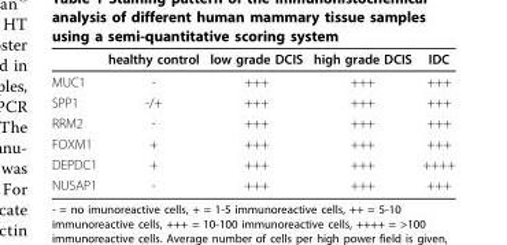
<table><thead><tr><td></td><td>healthy control</td><td>low grade DCIS</td><td>high grade DCIS</td><td>IDC</td></tr></thead><tbody><tr><td>MUC1</td><td>-</td><td>+++</td><td>+++</td><td>+++</td></tr><tr><td>SPP1</td><td>-/+</td><td>+++</td><td>+++</td><td>+++</td></tr><tr><td>RRM2</td><td>-</td><td>+++</td><td>+++</td><td>+++</td></tr><tr><td>FOXM1</td><td>+</td><td>+++</td><td>+++</td><td>+++</td></tr><tr><td>DEPDC1</td><td>+</td><td>+++</td><td>+++</td><td>++++</td></tr><tr><td>NUSAP1</td><td>-</td><td>+++</td><td>+++</td><td>+++</td></tr></tbody></table>